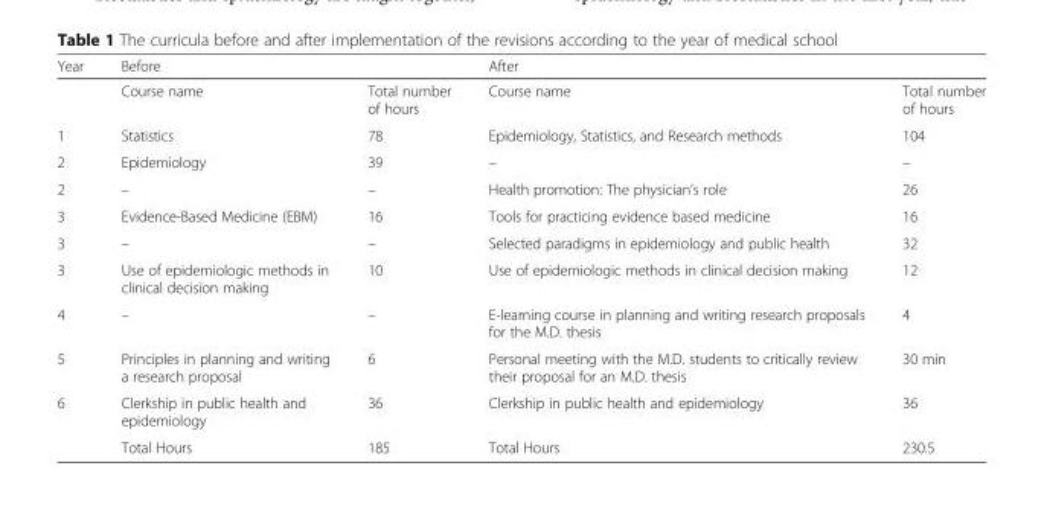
<table><thead><tr><td rowspan="2">Year</td><td colspan="2">Before</td><td colspan="2">After</td></tr><tr><td>Course name</td><td>Total number of hours</td><td>Course name</td><td>Total number of hours</td></tr></thead><tbody><tr><td>1</td><td>Statistics</td><td>78</td><td>Epidemiology, Statistics, and Research methods</td><td>104</td></tr><tr><td>2</td><td>Epidemiology</td><td>39</td><td>–</td><td>–</td></tr><tr><td>2</td><td>–</td><td>–</td><td>Health promotion: The physician’s role</td><td>26</td></tr><tr><td>3</td><td>Evidence-Based Medicine (EBM)</td><td>16</td><td>Tools for practicing evidence based medicine</td><td>16</td></tr><tr><td>3</td><td>–</td><td>–</td><td>Selected paradigms in epidemiology and public health</td><td>32</td></tr><tr><td>3</td><td>Use of epidemiologic methods in clinical decision making</td><td>10</td><td>Use of epidemiologic methods in clinical decision making</td><td>12</td></tr><tr><td>4</td><td>–</td><td>–</td><td>E-learning course in planning and writing research proposals for the M.D. thesis</td><td>4</td></tr><tr><td>5</td><td>Principles in planning and writing a research proposal</td><td>6</td><td>Personal meeting with the M.D. students to critically review their proposal for an M.D. thesis</td><td>30 min</td></tr><tr><td rowspan="2">6</td><td>Clerkship in public health and epidemiology</td><td>36</td><td>Clerkship in public health and epidemiology</td><td>36</td></tr><tr><td>Total Hours</td><td>185</td><td>Total Hours</td><td>230.5</td></tr></tbody></table>